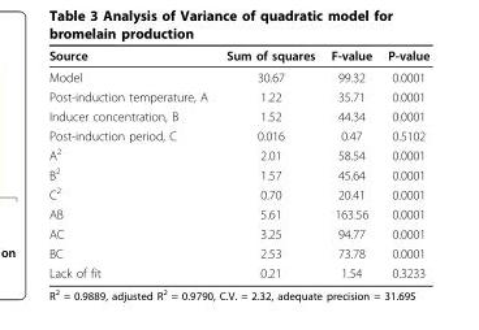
<table><thead><tr><td>Source</td><td>Sum of squares</td><td>F-value</td><td>P-value</td></tr></thead><tbody><tr><td>Model</td><td>30.67</td><td>99.32</td><td>0.0001</td></tr><tr><td>Post-induction temperature, A</td><td>1.22</td><td>35.71</td><td>0.0001</td></tr><tr><td>Inducer concentration, B</td><td>1.52</td><td>44.34</td><td>0.0001</td></tr><tr><td>Post-induction period, C</td><td>0.016</td><td>0.47</td><td>0.5102</td></tr><tr><td>A<sup>2</sup></td><td>2.01</td><td>58.54</td><td>0.0001</td></tr><tr><td>B<sup>2</sup></td><td>1.57</td><td>45.64</td><td>0.0001</td></tr><tr><td>C<sup>2</sup></td><td>0.70</td><td>20.41</td><td>0.0001</td></tr><tr><td>AB</td><td>5.61</td><td>163.56</td><td>0.0001</td></tr><tr><td>AC</td><td>3.25</td><td>94.77</td><td>0.0001</td></tr><tr><td>BC</td><td>2.53</td><td>73.78</td><td>0.0001</td></tr><tr><td>Lack of fit</td><td>0.21</td><td>1.54</td><td>0.3233</td></tr></tbody></table>